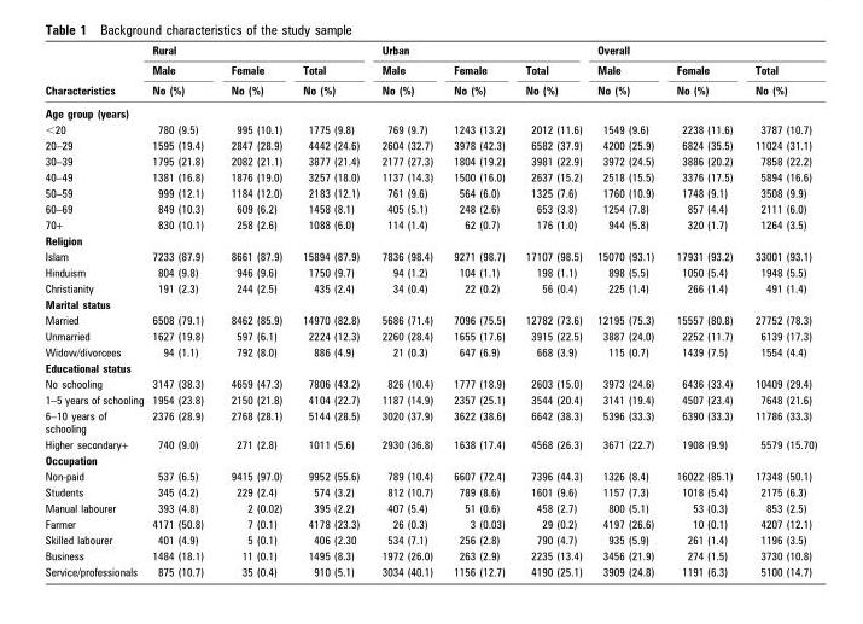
<table><thead><tr><td rowspan="3">Characteristics</td><td colspan="3">Rural</td><td colspan="3">Urban</td><td colspan="3">Overall</td></tr><tr><td rowspan="2">Male No (%)</td><td rowspan="2">Female No (%)</td><td rowspan="2">Total No (%)</td><td rowspan="2">Male No (%)</td><td rowspan="2">Female No (%)</td><td rowspan="2">Total No (%)</td><td rowspan="2">Male No (%)</td><td rowspan="2">Female No (%)</td><td rowspan="2">Total No (%)</td></tr><tr></tr></thead><tbody><tr><td colspan="10">Age group (years)</td></tr><tr><td>&lt;20</td><td>780 (9.5)</td><td>995 (10.1)</td><td>1775 (9.8)</td><td>769 (9.7)</td><td>1243 (13.2)</td><td>2012 (11.6)</td><td>1549 (9.6)</td><td>2238 (11.6)</td><td>3787 (10.7)</td></tr><tr><td>20–29</td><td>1595 (19.4)</td><td>2847 (28.9)</td><td>4442 (24.6)</td><td>2604 (32.7)</td><td>3978 (42.3)</td><td>6582 (37.9)</td><td>4200 (25.9)</td><td>6824 (35.5)</td><td>11024 (31.1)</td></tr><tr><td>30–39</td><td>1795 (21.8)</td><td>2082 (21.1)</td><td>3877 (21.4)</td><td>2177 (27.3)</td><td>1804 (19.2)</td><td>3981 (22.9)</td><td>3972 (24.5)</td><td>3886 (20.2)</td><td>7858 (22.2)</td></tr><tr><td>40–49</td><td>1381 (16.8)</td><td>1876 (19.0)</td><td>3257 (18.0)</td><td>1137 (14.3)</td><td>1500 (16.0)</td><td>2637 (15.2)</td><td>2518 (15.5)</td><td>3376 (17.5)</td><td>5894 (16.6)</td></tr><tr><td>50–59</td><td>999 (12.1)</td><td>1184 (12.0)</td><td>2183 (12.1)</td><td>761 (9.6)</td><td>564 (6.0)</td><td>1325 (7.6)</td><td>1760 (10.9)</td><td>1748 (9.1)</td><td>3508 (9.9)</td></tr><tr><td>60–69</td><td>849 (10.3)</td><td>609 (6.2)</td><td>1458 (8.1)</td><td>405 (5.1)</td><td>248 (2.6)</td><td>653 (3.8)</td><td>1254 (7.8)</td><td>857 (4.4)</td><td>2111 (6.0)</td></tr><tr><td>70+</td><td>830 (10.1)</td><td>258 (2.6)</td><td>1088 (6.0)</td><td>114 (1.4)</td><td>62 (0.7)</td><td>176 (1.0)</td><td>944 (5.8)</td><td>320 (1.7)</td><td>1264 (3.5)</td></tr><tr><td colspan="10">Religion</td></tr><tr><td>Islam</td><td>7233 (87.9)</td><td>8661 (87.9)</td><td>15894 (87.9)</td><td>7836 (98.4)</td><td>9271 (98.7)</td><td>17107 (98.5)</td><td>15070 (93.1)</td><td>17931 (93.2)</td><td>33001 (93.1)</td></tr><tr><td>Hinduism</td><td>804 (9.8)</td><td>946 (9.6)</td><td>1750 (9.7)</td><td>94 (1.2)</td><td>104 (1.1)</td><td>198 (1.1)</td><td>898 (5.5)</td><td>1050 (5.4)</td><td>1948 (5.5)</td></tr><tr><td>Christianity</td><td>191 (2.3)</td><td>244 (2.5)</td><td>435 (2.4)</td><td>34 (0.4)</td><td>22 (0.2)</td><td>56 (0.4)</td><td>225 (1.4)</td><td>266 (1.4)</td><td>491 (1.4)</td></tr><tr><td colspan="10">Marital status</td></tr><tr><td>Married</td><td>6508 (79.1)</td><td>8462 (85.9)</td><td>14970 (82.8)</td><td>5686 (71.4)</td><td>7096 (75.5)</td><td>12782 (73.6)</td><td>12195 (75.3)</td><td>15557 (80.8)</td><td>27752 (78.3)</td></tr><tr><td>Unmarried</td><td>1627 (19.8)</td><td>597 (6.1)</td><td>2224 (12.3)</td><td>2260 (28.4)</td><td>1655 (17.6)</td><td>3915 (22.5)</td><td>3887 (24.0)</td><td>2252 (11.7)</td><td>6139 (17.3)</td></tr><tr><td>Widow/divorcees</td><td>94 (1.1)</td><td>792 (8.0)</td><td>886 (4.9)</td><td>21 (0.3)</td><td>647 (6.9)</td><td>668 (3.9)</td><td>115 (0.7)</td><td>1439 (7.5)</td><td>1554 (4.4)</td></tr><tr><td colspan="10">Educational status</td></tr><tr><td>No schooling</td><td>3147 (38.3)</td><td>4659 (47.3)</td><td>7806 (43.2)</td><td>826 (10.4)</td><td>1777 (18.9)</td><td>2603 (15.0)</td><td>3973 (24.6)</td><td>6436 (33.4)</td><td>10409 (29.4)</td></tr><tr><td>1–5 years of schooling</td><td>1954 (23.8)</td><td>2150 (21.8)</td><td>4104 (22.7)</td><td>1187 (14.9)</td><td>2357 (25.1)</td><td>3544 (20.4)</td><td>3141 (19.4)</td><td>4507 (23.4)</td><td>7648 (21.6)</td></tr><tr><td>6–10 years of schooling</td><td>2376 (28.9)</td><td>2768 (28.1)</td><td>5144 (28.5)</td><td>3020 (37.9)</td><td>3622 (38.6)</td><td>6642 (38.3)</td><td>5396 (33.3)</td><td>6390 (33.3)</td><td>11786 (33.3)</td></tr><tr><td>Higher secondary+</td><td>740 (9.0)</td><td>271 (2.8)</td><td>1011 (5.6)</td><td>2930 (36.8)</td><td>1638 (17.4)</td><td>4568 (26.3)</td><td>3671 (22.7)</td><td>1908 (9.9)</td><td>5579 (15.70)</td></tr><tr><td colspan="10">Occupation</td></tr><tr><td>Non-paid</td><td>537 (6.5)</td><td>9415 (97.0)</td><td>9952 (55.6)</td><td>789 (10.4)</td><td>6607 (72.4)</td><td>7396 (44.3)</td><td>1326 (8.4)</td><td>16022 (85.1)</td><td>17348 (50.1)</td></tr><tr><td>Students</td><td>345 (4.2)</td><td>229 (2.4)</td><td>574 (3.2)</td><td>812 (10.7)</td><td>789 (8.6)</td><td>1601 (9.6)</td><td>1157 (7.3)</td><td>1018 (5.4)</td><td>2175 (6.3)</td></tr><tr><td>Manual labourer</td><td>393 (4.8)</td><td>2 (0.02)</td><td>395 (2.2)</td><td>407 (5.4)</td><td>51 (0.6)</td><td>458 (2.7)</td><td>800 (5.1)</td><td>53 (0.3)</td><td>853 (2.5)</td></tr><tr><td>Farmer</td><td>4171 (50.8)</td><td>7 (0.1)</td><td>4178 (23.3)</td><td>26 (0.3)</td><td>3 (0.03)</td><td>29 (0.2)</td><td>4197 (26.6)</td><td>10 (0.1)</td><td>4207 (12.1)</td></tr><tr><td>Skilled labourer</td><td>401 (4.9)</td><td>5 (0.1)</td><td>406 (2.30</td><td>534 (7.1)</td><td>256 (2.8)</td><td>790 (4.7)</td><td>935 (5.9)</td><td>261 (1.4)</td><td>1196 (3.5)</td></tr><tr><td>Business</td><td>1484 (18.1)</td><td>11 (0.1)</td><td>1495 (8.3)</td><td>1972 (26.0)</td><td>263 (2.9)</td><td>2235 (13.4)</td><td>3456 (21.9)</td><td>274 (1.5)</td><td>3730 (10.8)</td></tr><tr><td>Service/professionals</td><td>875 (10.7)</td><td>35 (0.4)</td><td>910 (5.1)</td><td>3034 (40.1)</td><td>1156 (12.7)</td><td>4190 (25.1)</td><td>3909 (24.8)</td><td>1191 (6.3)</td><td>5100 (14.7)</td></tr></tbody></table>